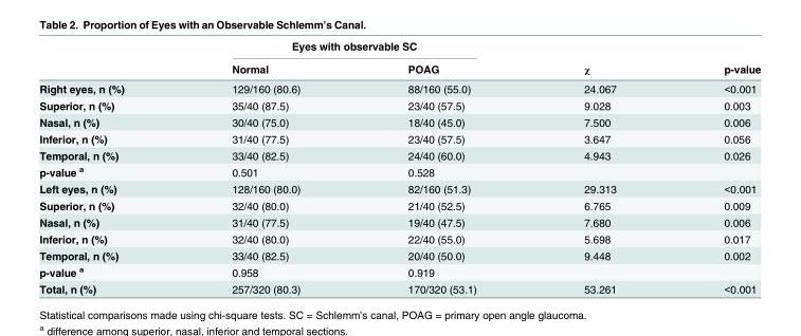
<table><thead><tr><td rowspan="2"></td><td colspan="2">Eyes with observable SC</td><td rowspan="2">χ</td><td rowspan="2">p-value</td></tr><tr><td>Normal</td><td>POAG</td></tr></thead><tbody><tr><td>Right eyes, n (%)</td><td>129/160 (80.6)</td><td>88/160 (55.0)</td><td>24.067</td><td>&lt;0.001</td></tr><tr><td>Superior, n (%)</td><td>35/40 (87.5)</td><td>23/40 (57.5)</td><td>9.028</td><td>0.003</td></tr><tr><td>Nasal, n (%)</td><td>30/40 (75.0)</td><td>18/40 (45.0)</td><td>7.500</td><td>0.006</td></tr><tr><td>Inferior, n (%)</td><td>31/40 (77.5)</td><td>23/40 (57.5)</td><td>3.647</td><td>0.056</td></tr><tr><td>Temporal, n (%)</td><td>33/40 (82.5)</td><td>24/40 (60.0)</td><td>4.943</td><td>0.026</td></tr><tr><td>p-value <sup>a</sup></td><td>0.501</td><td>0.528</td><td></td><td></td></tr><tr><td>Left eyes, n (%)</td><td>128/160 (80.0)</td><td>82/160 (51.3)</td><td>29.313</td><td>&lt;0.001</td></tr><tr><td>Superior, n (%)</td><td>32/40 (80.0)</td><td>21/40 (52.5)</td><td>6.765</td><td>0.009</td></tr><tr><td>Nasal, n (%)</td><td>31/40 (77.5)</td><td>19/40 (47.5)</td><td>7.680</td><td>0.006</td></tr><tr><td>Inferior, n (%)</td><td>32/40 (80.0)</td><td>22/40 (55.0)</td><td>5.698</td><td>0.017</td></tr><tr><td>Temporal, n (%)</td><td>33/40 (82.5)</td><td>20/40 (50.0)</td><td>9.448</td><td>0.002</td></tr><tr><td>p-value <sup>a</sup></td><td>0.958</td><td>0.919</td><td></td><td></td></tr><tr><td>Total, n (%)</td><td>257/320 (80.3)</td><td>170/320 (53.1)</td><td>53.261</td><td>&lt;0.001</td></tr></tbody></table>